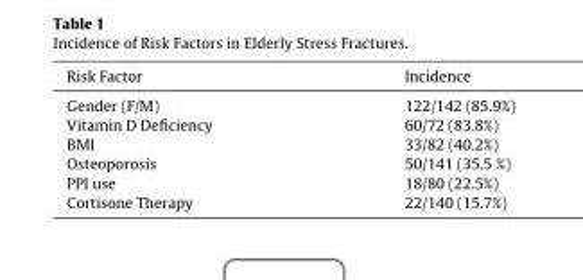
<table><thead><tr><td>Risk Factor</td><td>Incidence</td></tr></thead><tbody><tr><td>Gender (F/M)</td><td>122/142 (85.9%)</td></tr><tr><td>Vitamin D Deficiency</td><td>60/72 (83.8%)</td></tr><tr><td>BMI</td><td>33/82 (40.2%)</td></tr><tr><td>Osteoporosis</td><td>50/141 (35.5 %)</td></tr><tr><td>PPI use</td><td>18/80 (22.5%)</td></tr><tr><td>Cortisone Therapy</td><td>22/140 (15.7%)</td></tr></tbody></table>